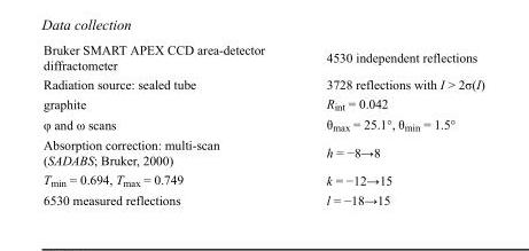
<table><tbody><tr><td>Bruker SMART APEX CCD area-detector diffractometer</td><td>4530 independent reflections</td></tr><tr><td>Radiation source: sealed tube</td><td>3728 reflections with I &gt; 2σ(I)</td></tr><tr><td>graphite</td><td>R<sub>int</sub> = 0.042</td></tr><tr><td>φ and ω scans</td><td>θ<sub>max</sub> = 25.1°, θ<sub>min</sub> = 1.5°</td></tr><tr><td>Absorption correction: multi-scan (SADABS; Bruker, 2000)</td><td>h = −8→8</td></tr><tr><td>T<sub>min</sub> = 0.694, T<sub>max</sub> = 0.749</td><td>k = −12→15</td></tr><tr><td>6530 measured reflections</td><td>l = −18→15</td></tr></tbody></table>